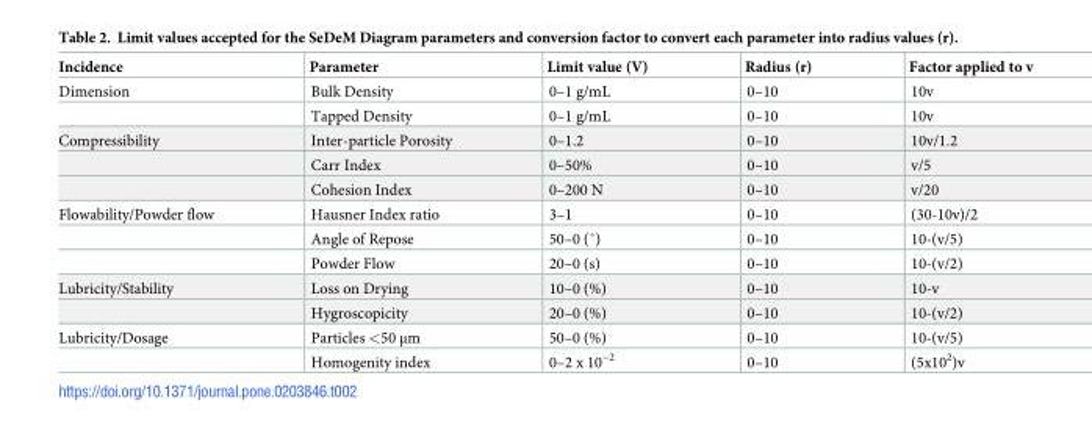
<table><thead><tr><td>Incidence</td><td>Parameter</td><td>Limit value (V)</td><td>Radius (r)</td><td>Factor applied to v</td></tr></thead><tbody><tr><td rowspan="2">Dimension</td><td>Bulk Density</td><td>0–1 g/mL</td><td>0–10</td><td>10v</td></tr><tr><td>Tapped Density</td><td>0–1 g/mL</td><td>0–10</td><td>10v</td></tr><tr><td rowspan="3">Compressibility</td><td>Inter-particle Porosity</td><td>0–1.2</td><td>0–10</td><td>10v/1.2</td></tr><tr><td>Carr Index</td><td>0–50%</td><td>0–10</td><td>v/5</td></tr><tr><td>Cohesion Index</td><td>0–200 N</td><td>0–10</td><td>v/20</td></tr><tr><td rowspan="3">Flowability/Powder flow</td><td>Hausner Index ratio</td><td>3–1</td><td>0–10</td><td>(30-10v)/2</td></tr><tr><td>Angle of Repose</td><td>50–0 (˚)</td><td>0–10</td><td>10-(v/5)</td></tr><tr><td>Powder Flow</td><td>20–0 (s)</td><td>0–10</td><td>10-(v/2)</td></tr><tr><td rowspan="2">Lubricity/Stability</td><td>Loss on Drying</td><td>10–0 (%)</td><td>0–10</td><td>10-v</td></tr><tr><td>Hygroscopicity</td><td>20–0 (%)</td><td>0–10</td><td>10-(v/2)</td></tr><tr><td rowspan="2">Lubricity/Dosage</td><td>Particles &lt;50 μm</td><td>50–0 (%)</td><td>0–10</td><td>10-(v/5)</td></tr><tr><td>Homogenity index</td><td>0–2 x 10<sup>−2</sup></td><td>0–10</td><td>(5x10<sup>2</sup>)v</td></tr></tbody></table>